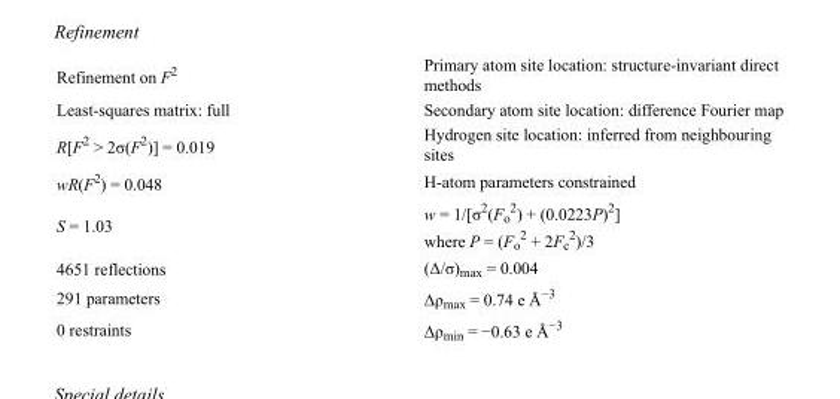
<table><tbody><tr><td>Refinement on F<sup>2</sup></td><td>Primary atom site location: structure-invariant direct methods</td></tr><tr><td>Least-squares matrix: full</td><td>Secondary atom site location: difference Fourier map</td></tr><tr><td>R[F<sup>2</sup> &gt; 2σ(F<sup>2</sup>)] = 0.019</td><td>Hydrogen site location: inferred from neighbouring sites</td></tr><tr><td>wR(F<sup>2</sup>) = 0.048</td><td>H-atom parameters constrained</td></tr><tr><td>S = 1.03</td><td>w = 1/[σ<sup>2</sup>(F<sub>o</sub> <sup>2</sup>) + (0.0223P)<sup>2</sup>] where P = (F<sub>o</sub> <sup>2</sup> + 2F<sub>c</sub> <sup>2</sup>)/3</td></tr><tr><td>4651 reflections</td><td>(Δ/σ)<sub>max</sub> = 0.004</td></tr><tr><td>291 parameters</td><td>Δρ<sub>max</sub> = 0.74 e Å<sup>−3</sup></td></tr><tr><td>0 restraints</td><td>Δρ<sub>min</sub> = −0.63 e Å<sup>−3</sup></td></tr></tbody></table>